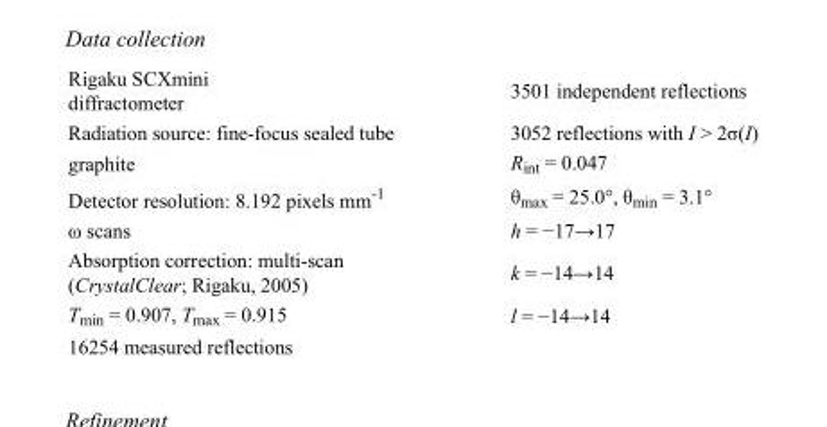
<table><tbody><tr><td>Rigaku SCXmini diffractometer</td><td>3501 independent reflections</td></tr><tr><td>Radiation source: fine-focus sealed tube</td><td>3052 reflections with I &gt; 2σ(I)</td></tr><tr><td>graphite</td><td>R<sub>int</sub> = 0.047</td></tr><tr><td>Detector resolution: 8.192 pixels mm<sup>-1</sup></td><td>θ<sub>max</sub> = 25.0°, θ<sub>min</sub> = 3.1°</td></tr><tr><td>ω scans</td><td>h = −17→17</td></tr><tr><td>Absorption correction: multi-scan (CrystalClear; Rigaku, 2005)</td><td>k = −14→14</td></tr><tr><td>T<sub>min</sub> = 0.907, T<sub>max</sub> = 0.915</td><td>l = −14→14</td></tr><tr><td>16254 measured reflections</td><td></td></tr></tbody></table>